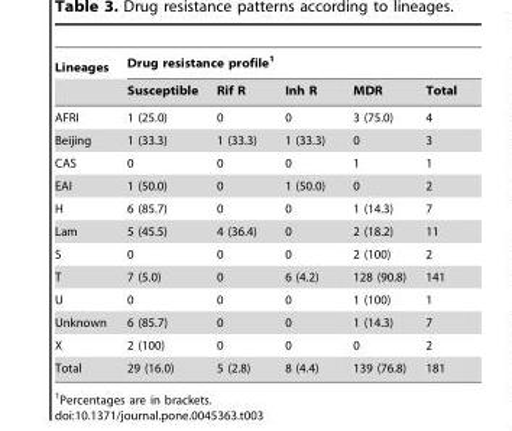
<table><thead><tr><td rowspan="2">Lineages</td><td colspan="5">Drug resistance profile<sup>1</sup></td></tr><tr><td>Susceptible</td><td>Rif R</td><td>Inh R</td><td>MDR</td><td>Total</td></tr></thead><tbody><tr><td>AFRI</td><td>1 (25.0)</td><td>0</td><td>0</td><td>3 (75.0)</td><td>4</td></tr><tr><td>Beijing</td><td>1 (33.3)</td><td>1 (33.3)</td><td>1 (33.3)</td><td>0</td><td>3</td></tr><tr><td>CAS</td><td>0</td><td>0</td><td>0</td><td>1</td><td>1</td></tr><tr><td>EAI</td><td>1 (50.0)</td><td>0</td><td>1 (50.0)</td><td>0</td><td>2</td></tr><tr><td>H</td><td>6 (85.7)</td><td>0</td><td>0</td><td>1 (14.3)</td><td>7</td></tr><tr><td>Lam</td><td>5 (45.5)</td><td>4 (36.4)</td><td>0</td><td>2 (18.2)</td><td>11</td></tr><tr><td>S</td><td>0</td><td>0</td><td>0</td><td>2 (100)</td><td>2</td></tr><tr><td>T</td><td>7 (5.0)</td><td>0</td><td>6 (4.2)</td><td>128 (90.8)</td><td>141</td></tr><tr><td>U</td><td>0</td><td>0</td><td>0</td><td>1 (100)</td><td>1</td></tr><tr><td>Unknown</td><td>6 (85.7)</td><td>0</td><td>0</td><td>1 (14.3)</td><td>7</td></tr><tr><td>X</td><td>2 (100)</td><td>0</td><td>0</td><td>0</td><td>2</td></tr><tr><td>Total</td><td>29 (16.0)</td><td>5 (2.8)</td><td>8 (4.4)</td><td>139 (76.8)</td><td>181</td></tr></tbody></table>